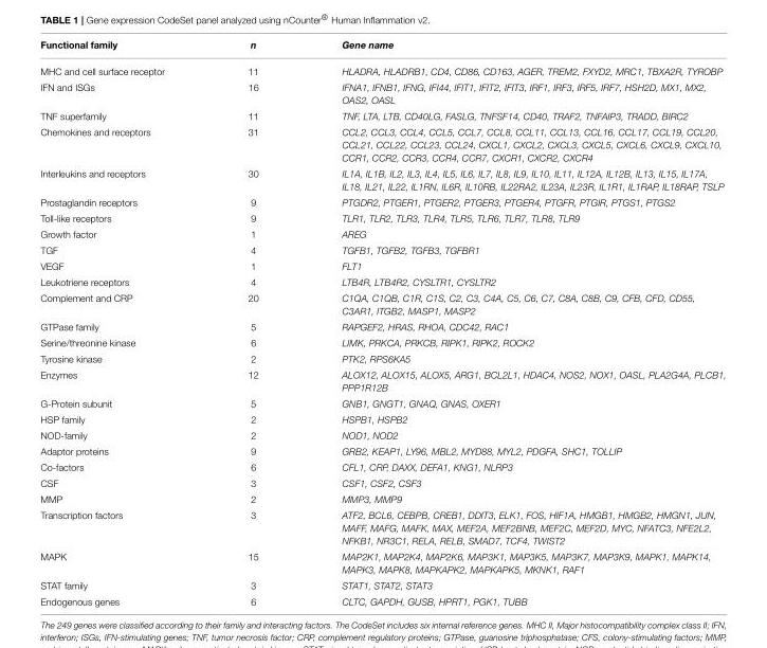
<table><thead><tr><td>Functional family</td><td>n</td><td>Gene name</td></tr></thead><tbody><tr><td>MHC and cell surface receptor</td><td>11</td><td>HLADRA, HLADRB1, CD4, CD86, CD163, AGER, TREM2, FXYD2, MRC1, TBXA2R, TYROBP</td></tr><tr><td>IFN and ISGs</td><td>16</td><td>IFNA1, IFNB1, IFNG, IFI44, IFIT1, IFIT2, IFIT3, IRF1, IRF3, IRF5, IRF7, HSH2D, MX1, MX2, OAS2, OASL</td></tr><tr><td>TNF superfamily</td><td>11</td><td>TNF, LTA, LTB, CD40LG, FASLG, TNFSF14, CD40, TRAF2, TNFAIP3, TRADD, BIRC2</td></tr><tr><td>Chemokines and receptors</td><td>31</td><td>CCL2, CCL3, CCL4, CCL5, CCL7, CCL8, CCL11, CCL13, CCL16, CCL17, CCL19, CCL20, CCL21, CCL22, CCL23, CCL24, CXCL1, CXCL2, CXCL3, CXCL5, CXCL6, CXCL9, CXCL10, CCR1, CCR2, CCR3, CCR4, CCR7, CXCR1, CXCR2, CXCR4</td></tr><tr><td>Interleukins and receptors</td><td>30</td><td>IL1A, IL1B, IL2, IL3, IL4, IL5, IL6, IL7, IL8, IL9, IL10, IL11, IL12A, IL12B, IL13, IL15, IL17A, IL18, IL21, IL22, IL1RN, IL6R, IL10RB, IL22RA2, IL23A, IL23R, IL1R1, IL1RAP, IL18RAP, TSLP</td></tr><tr><td>Prostaglandin receptors</td><td>9</td><td>PTGDR2, PTGER1, PTGER2, PTGER3, PTGER4, PTGFR, PTGIR, PTGS1, PTGS2</td></tr><tr><td>Toll-like receptors</td><td>9</td><td>TLR1, TLR2, TLR3, TLR4, TLR5, TLR6, TLR7, TLR8, TLR9</td></tr><tr><td>Growth factor</td><td>1</td><td>AREG</td></tr><tr><td>TGF</td><td>4</td><td>TGFB1, TGFB2, TGFB3, TGFBR1</td></tr><tr><td>VEGF</td><td>1</td><td>FLT1</td></tr><tr><td>Leukotriene receptors</td><td>4</td><td>LTB4R, LTB4R2, CYSLTR1, CYSLTR2</td></tr><tr><td>Complement and CRP</td><td>20</td><td>C1QA, C1QB, C1R, C1S, C2, C3, C4A, C5, C6, C7, C8A, C8B, C9, CFB, CFD, CD55, C3AR1, ITGB2, MASP1, MASP2</td></tr><tr><td>GTPase family</td><td>5</td><td>RAPGEF2, HRAS, RHOA, CDC42, RAC1</td></tr><tr><td>Serine/threonine kinase</td><td>6</td><td>LIMK, PRKCA, PRKCB, RIPK1, RIPK2, ROCK2</td></tr><tr><td>Tyrosine kinase</td><td>2</td><td>PTK2, RPS6KA5</td></tr><tr><td>Enzymes</td><td>12</td><td>ALOX12, ALOX15, ALOX5, ARG1, BCL2L1, HDAC4, NOS2, NOX1, OASL, PLA2G4A, PLCB1, PPP1R12B</td></tr><tr><td>G-Protein subunit</td><td>5</td><td>GNB1, GNGT1, GNAQ, GNAS, OXER1</td></tr><tr><td>HSP family</td><td>2</td><td>HSPB1, HSPB2</td></tr><tr><td>NOD-family</td><td>2</td><td>NOD1, NOD2</td></tr><tr><td>Adaptor proteins</td><td>9</td><td>GRB2, KEAP1, LY96, MBL2, MYD88, MYL2, PDGFA, SHC1, TOLLIP</td></tr><tr><td>Co-factors</td><td>6</td><td>CFL1, CRP, DAXX, DEFA1, KNG1, NLRP3</td></tr><tr><td>CSF</td><td>3</td><td>CSF1, CSF2, CSF3</td></tr><tr><td>MMP</td><td>2</td><td>MMP3, MMP9</td></tr><tr><td>Transcription factors</td><td>3</td><td>ATF2, BCL6, CEBPB, CREB1, DDIT3, ELK1, FOS, HIF1A, HMGB1, HMGB2, HMGN1, JUN, MAFF, MAFG, MAFK, MAX, MEF2A, MEF2BNB, MEF2C, MEF2D, MYC, NFATC3, NFE2L2, NFKB1, NR3C1, RELA, RELB, SMAD7, TCF4, TWIST2</td></tr><tr><td>MAPK</td><td>15</td><td>MAP2K1, MAP2K4, MAP2K6, MAP3K1, MAP3K5, MAP3K7, MAP3K9, MAPK1, MAPK14, MAPK3, MAPK8, MAPKAPK2, MAPKAPK5, MKNK1, RAF1</td></tr><tr><td>STAT family</td><td>3</td><td>STAT1, STAT2, STAT3</td></tr><tr><td>Endogenous genes</td><td>6</td><td>CLTC, GAPDH, GUSB, HPRT1, PGK1, TUBB</td></tr></tbody></table>